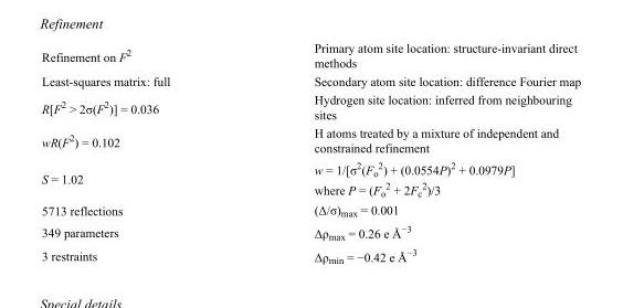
<table><tbody><tr><td>Refinement on F<sup>2</sup></td><td>Primary atom site location: structure-invariant direct methods</td></tr><tr><td>Least-squares matrix: full</td><td>Secondary atom site location: difference Fourier map</td></tr><tr><td>R[F<sup>2</sup> &gt; 2σ(F<sup>2</sup>)] = 0.036</td><td>Hydrogen site location: inferred from neighbouring sites</td></tr><tr><td>wR(F<sup>2</sup>) = 0.102</td><td>H atoms treated by a mixture of independent and constrained refinement</td></tr><tr><td>S = 1.02</td><td>w = 1/[σ<sup>2</sup>(F<sub>o</sub> <sup>2</sup>) + (0.0554P)<sup>2</sup> + 0.0979P] where P = (F<sub>o</sub> <sup>2</sup> + 2F<sub>c</sub> <sup>2</sup>)/3</td></tr><tr><td>5713 reflections</td><td>(Δ/σ)<sub>max</sub> = 0.001</td></tr><tr><td>349 parameters</td><td>Δρ<sub>max</sub> = 0.26 e Å<sup>−3</sup></td></tr><tr><td>3 restraints</td><td>Δρ<sub>min</sub> = −0.42 e Å<sup>−3</sup></td></tr></tbody></table>